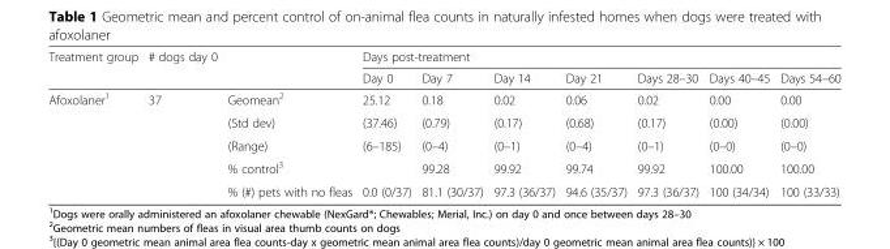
<table><thead><tr><td rowspan="2">Treatment group</td><td rowspan="2"># dogs day 0</td><td rowspan="2"></td><td colspan="7">Days post-treatment</td></tr><tr><td>Day 0</td><td>Day 7</td><td>Day 14</td><td>Day 21</td><td>Days 28–30</td><td>Days 40–45</td><td>Days 54–60</td></tr></thead><tbody><tr><td rowspan="3">Afoxolaner<sup>1</sup></td><td rowspan="3">37</td><td>Geomean<sup>2</sup></td><td>25.12</td><td>0.18</td><td>0.02</td><td>0.06</td><td>0.02</td><td>0.00</td><td>0.00</td></tr><tr><td>(Std dev)</td><td>(37.46)</td><td>(0.79)</td><td>(0.17)</td><td>(0.68)</td><td>(0.17)</td><td>(0.00)</td><td>(0.00)</td></tr><tr><td>(Range)</td><td>(6–185)</td><td>(0–4)</td><td>(0–1)</td><td>(0–4)</td><td>(0–1)</td><td>(0–0)</td><td>(0–0)</td></tr><tr><td colspan="2"></td><td>% control<sup>3</sup></td><td></td><td>99.28</td><td>99.92</td><td>99.74</td><td>99.92</td><td>100.00</td><td>100.00</td></tr><tr><td colspan="2"></td><td>% (#) pets with no fleas</td><td>0.0 (0/37)</td><td>81.1 (30/37)</td><td>97.3 (36/37)</td><td>94.6 (35/37)</td><td>97.3 (36/37)</td><td>100 (34/34)</td><td>100 (33/33)</td></tr></tbody></table>